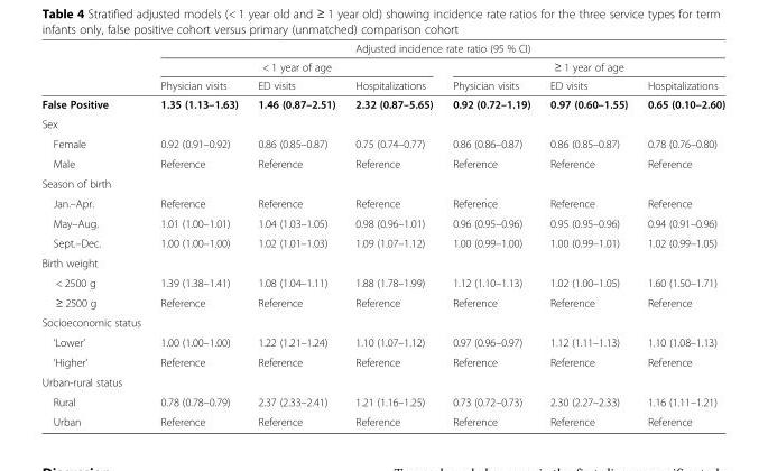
<table><thead><tr><td rowspan="3"></td><td colspan="6">Adjusted incidence rate ratio (95 % CI)</td></tr><tr><td colspan="3">&lt; 1 year of age</td><td colspan="3">≥ 1 year of age</td></tr><tr><td>Physician visits</td><td>ED visits</td><td>Hospitalizations</td><td>Physician visits</td><td>ED visits</td><td>Hospitalizations</td></tr></thead><tbody><tr><td>False Positive</td><td>1.35 (1.13–1.63)</td><td>1.46 (0.87–2.51)</td><td>2.32 (0.87–5.65)</td><td>0.92 (0.72–1.19)</td><td>0.97 (0.60–1.55)</td><td>0.65 (0.10–2.60)</td></tr><tr><td colspan="7">Sex</td></tr><tr><td>Female</td><td>0.92 (0.91–0.92)</td><td>0.86 (0.85–0.87)</td><td>0.75 (0.74–0.77)</td><td>0.86 (0.86–0.87)</td><td>0.86 (0.85–0.87)</td><td>0.78 (0.76–0.80)</td></tr><tr><td>Male</td><td>Reference</td><td>Reference</td><td>Reference</td><td>Reference</td><td>Reference</td><td>Reference</td></tr><tr><td colspan="7">Season of birth</td></tr><tr><td>Jan.–Apr.</td><td>Reference</td><td>Reference</td><td>Reference</td><td>Reference</td><td>Reference</td><td>Reference</td></tr><tr><td>May–Aug.</td><td>1.01 (1.00–1.01)</td><td>1.04 (1.03–1.05)</td><td>0.98 (0.96–1.01)</td><td>0.96 (0.95–0.96)</td><td>0.95 (0.95–0.96)</td><td>0.94 (0.91–0.96)</td></tr><tr><td>Sept.–Dec.</td><td>1.00 (1.00–1.00)</td><td>1.02 (1.01–1.03)</td><td>1.09 (1.07–1.12)</td><td>1.00 (0.99–1.00)</td><td>1.00 (0.99–1.01)</td><td>1.02 (0.99–1.05)</td></tr><tr><td colspan="7">Birth weight</td></tr><tr><td>&lt; 2500 g</td><td>1.39 (1.38–1.41)</td><td>1.08 (1.04–1.11)</td><td>1.88 (1.78–1.99)</td><td>1.12 (1.10–1.13)</td><td>1.02 (1.00–1.05)</td><td>1.60 (1.50–1.71)</td></tr><tr><td>≥ 2500 g</td><td>Reference</td><td>Reference</td><td>Reference</td><td>Reference</td><td>Reference</td><td>Reference</td></tr><tr><td colspan="7">Socioeconomic status</td></tr><tr><td>‘Lower’</td><td>1.00 (1.00–1.00)</td><td>1.22 (1.21–1.24)</td><td>1.10 (1.07–1.12)</td><td>0.97 (0.96–0.97)</td><td>1.12 (1.11–1.13)</td><td>1.10 (1.08–1.13)</td></tr><tr><td>‘Higher’</td><td>Reference</td><td>Reference</td><td>Reference</td><td>Reference</td><td>Reference</td><td>Reference</td></tr><tr><td colspan="7">Urban-rural status</td></tr><tr><td>Rural</td><td>0.78 (0.78–0.79)</td><td>2.37 (2.33–2.41)</td><td>1.21 (1.16–1.25)</td><td>0.73 (0.72–0.73)</td><td>2.30 (2.27–2.33)</td><td>1.16 (1.11–1.21)</td></tr><tr><td>Urban</td><td>Reference</td><td>Reference</td><td>Reference</td><td>Reference</td><td>Reference</td><td>Reference</td></tr></tbody></table>